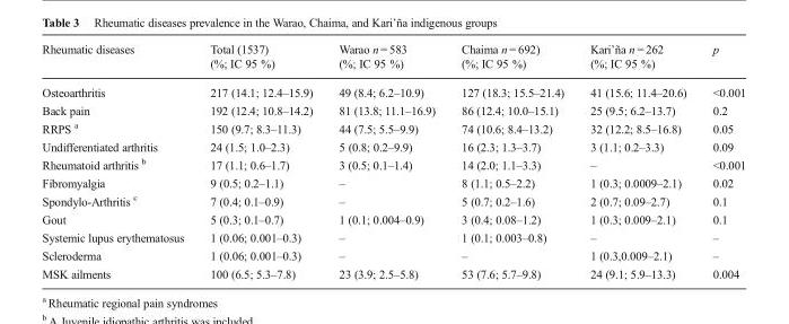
<table><thead><tr><td>Rheumatic diseases</td><td>Total (1537) (%; IC 95 %)</td><td>Warao n = 583 (%; IC 95 %)</td><td>Chaima n = 692) (%; IC 95 %)</td><td>Kari’ña n = 262 (%; IC 95 %)</td><td>p</td></tr></thead><tbody><tr><td>Osteoarthritis</td><td>217 (14.1; 12.4–15.9)</td><td>49 (8.4; 6.2–10.9)</td><td>127 (18.3; 15.5–21.4)</td><td>41 (15.6; 11.4–20.6)</td><td>&lt;0.001</td></tr><tr><td>Back pain</td><td>192 (12.4; 10.8–14.2)</td><td>81 (13.8; 11.1–16.9)</td><td>86 (12.4; 10.0–15.1)</td><td>25 (9.5; 6.2–13.7)</td><td>0.2</td></tr><tr><td>RRPS <sup>a</sup></td><td>150 (9.7; 8.3–11.3)</td><td>44 (7.5; 5.5–9.9)</td><td>74 (10.6; 8.4–13.2)</td><td>32 (12.2; 8.5–16.8)</td><td>0.05</td></tr><tr><td>Undifferentiated arthritis</td><td>24 (1.5; 1.0–2.3)</td><td>5 (0.8; 0.2–9.9)</td><td>16 (2.3; 1.3–3.7)</td><td>3 (1.1; 0.2–3.3)</td><td>0.09</td></tr><tr><td>Rheumatoid arthritis <sup>b</sup></td><td>17 (1.1; 0.6–1.7)</td><td>3 (0.5; 0.1–1.4)</td><td>14 (2.0; 1.1–3.3)</td><td>–</td><td>&lt;0.001</td></tr><tr><td>Fibromyalgia</td><td>9 (0.5; 0.2–1.1)</td><td>–</td><td>8 (1.1; 0.5–2.2)</td><td>1 (0.3; 0.0009–2.1)</td><td>0.02</td></tr><tr><td>Spondylo-Arthritis <sup>c</sup></td><td>7 (0.4; 0.1–0.9)</td><td>–</td><td>5 (0.7; 0.2–1.6)</td><td>2 (0.7; 0.09–2.7)</td><td>0.1</td></tr><tr><td>Gout</td><td>5 (0.3; 0.1–0.7)</td><td>1 (0.1; 0.004–0.9)</td><td>3 (0.4; 0.08–1.2)</td><td>1 (0.3; 0.009–2.1)</td><td>0.1</td></tr><tr><td>Systemic lupus erythematosus</td><td>1 (0.06; 0.001–0.3)</td><td>–</td><td>1 (0.1; 0.003–0.8)</td><td>–</td><td>–</td></tr><tr><td>Scleroderma</td><td>1 (0.06; 0.001–0.3)</td><td>–</td><td>–</td><td>1 (0.3,0.009–2.1)</td><td>–</td></tr><tr><td>MSK ailments</td><td>100 (6.5; 5.3–7.8)</td><td>23 (3.9; 2.5–5.8)</td><td>53 (7.6; 5.7–9.8)</td><td>24 (9.1; 5.9–13.3)</td><td>0.004</td></tr></tbody></table>